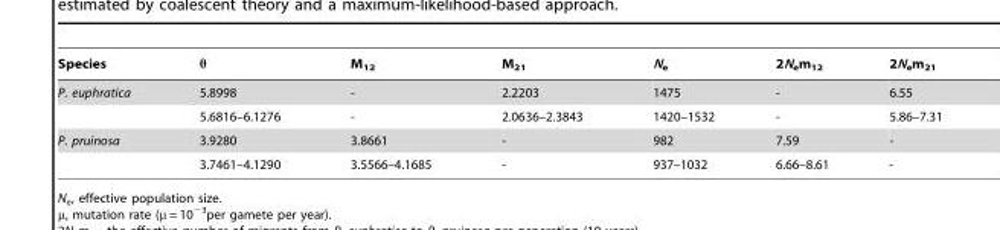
<table><thead><tr><td>Species</td><td>θ</td><td>M<sub>12</sub></td><td>M<sub>21</sub></td><td>N<sub>e</sub></td><td>2N<sub>e</sub>m<sub>12</sub></td><td>2N<sub>e</sub>m<sub>21</sub></td></tr></thead><tbody><tr><td rowspan="2">P. euphratica</td><td>5.8998</td><td>-</td><td>2.2203</td><td>1475</td><td>-</td><td>6.55</td></tr><tr><td>5.6816–6.1276</td><td>-</td><td>2.0636–2.3843</td><td>1420–1532</td><td>-</td><td>5.86–7.31</td></tr><tr><td rowspan="2">P. pruinosa</td><td>3.9280</td><td>3.8661</td><td>-</td><td>982</td><td>7.59</td><td>-</td></tr><tr><td>3.7461–4.1290</td><td>3.5566–4.1685</td><td>-</td><td>937–1032</td><td>6.66–8.61</td><td>-</td></tr></tbody></table>